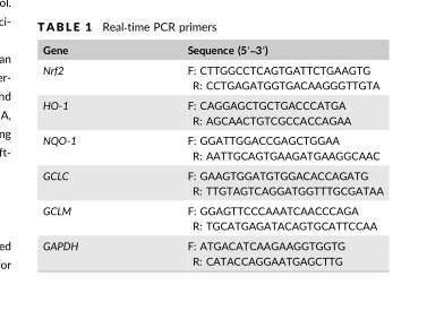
<table><thead><tr><td>Gene</td><td>Sequence (5′–3′)</td></tr></thead><tbody><tr><td>Nrf2</td><td>F: CTTGGCCTCAGTGATTCTGAAGTG R: CCTGAGATGGTGACAAGGGTTGTA</td></tr><tr><td>HO-1</td><td>F: CAGGAGCTGCTGACCCATGA R: AGCAACTGTCGCCACCAGAA</td></tr><tr><td>NQO-1</td><td>F: GGATTGGACCGAGCTGGAA R: AATTGCAGTGAAGATGAAGGCAAC</td></tr><tr><td>GCLC</td><td>F: GAAGTGGATGTGGACACCAGATG R: TTGTAGTCAGGATGGTTTGCGATAA</td></tr><tr><td>GCLM</td><td>F: GGAGTTCCCAAATCAACCCAGA R: TGCATGAGATACAGTGCATTCCAA</td></tr><tr><td>GAPDH</td><td>F: ATGACATCAAGAAGGTGGTG R: CATACCAGGAATGAGCTTG</td></tr></tbody></table>